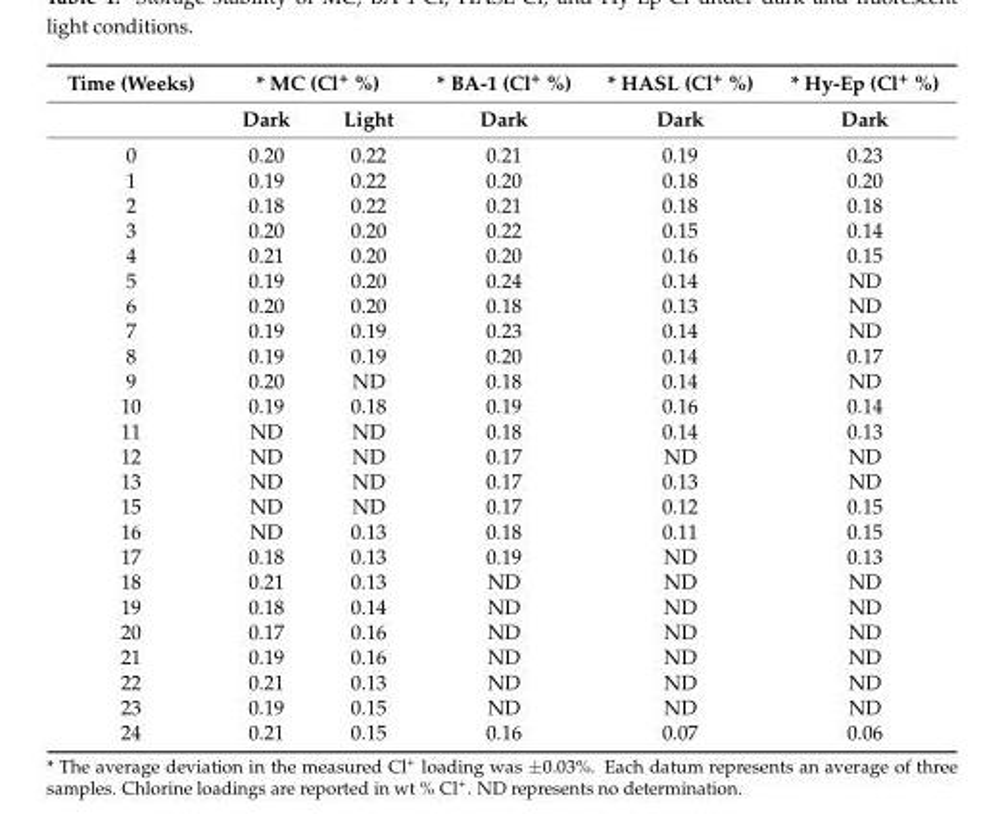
<table><thead><tr><td rowspan="2">Time (Weeks)</td><td colspan="2">* MC (Cl+ %)</td><td rowspan="2">* BA-1 (Cl+ %) Dark</td><td rowspan="2">* HASL (Cl+ %) Dark</td><td rowspan="2">* Hy-Ep (Cl+ %) Dark</td></tr><tr><td>Dark</td><td>Light</td></tr></thead><tbody><tr><td>0</td><td>0.20</td><td>0.22</td><td>0.21</td><td>0.19</td><td>0.23</td></tr><tr><td>1</td><td>0.19</td><td>0.22</td><td>0.20</td><td>0.18</td><td>0.20</td></tr><tr><td>2</td><td>0.18</td><td>0.22</td><td>0.21</td><td>0.18</td><td>0.18</td></tr><tr><td>3</td><td>0.20</td><td>0.20</td><td>0.22</td><td>0.15</td><td>0.14</td></tr><tr><td>4</td><td>0.21</td><td>0.20</td><td>0.20</td><td>0.16</td><td>0.15</td></tr><tr><td>5</td><td>0.19</td><td>0.20</td><td>0.24</td><td>0.14</td><td>ND</td></tr><tr><td>6</td><td>0.20</td><td>0.20</td><td>0.18</td><td>0.13</td><td>ND</td></tr><tr><td>7</td><td>0.19</td><td>0.19</td><td>0.23</td><td>0.14</td><td>ND</td></tr><tr><td>8</td><td>0.19</td><td>0.19</td><td>0.20</td><td>0.14</td><td>0.17</td></tr><tr><td>9</td><td>0.20</td><td>ND</td><td>0.18</td><td>0.14</td><td>ND</td></tr><tr><td>10</td><td>0.19</td><td>0.18</td><td>0.19</td><td>0.16</td><td>0.14</td></tr><tr><td>11</td><td>ND</td><td>ND</td><td>0.18</td><td>0.14</td><td>0.13</td></tr><tr><td>12</td><td>ND</td><td>ND</td><td>0.17</td><td>ND</td><td>ND</td></tr><tr><td>13</td><td>ND</td><td>ND</td><td>0.17</td><td>0.13</td><td>ND</td></tr><tr><td>15</td><td>ND</td><td>ND</td><td>0.17</td><td>0.12</td><td>0.15</td></tr><tr><td>16</td><td>ND</td><td>0.13</td><td>0.18</td><td>0.11</td><td>0.15</td></tr><tr><td>17</td><td>0.18</td><td>0.13</td><td>0.19</td><td>ND</td><td>0.13</td></tr><tr><td>18</td><td>0.21</td><td>0.13</td><td>ND</td><td>ND</td><td>ND</td></tr><tr><td>19</td><td>0.18</td><td>0.14</td><td>ND</td><td>ND</td><td>ND</td></tr><tr><td>20</td><td>0.17</td><td>0.16</td><td>ND</td><td>ND</td><td>ND</td></tr><tr><td>21</td><td>0.19</td><td>0.16</td><td>ND</td><td>ND</td><td>ND</td></tr><tr><td>22</td><td>0.21</td><td>0.13</td><td>ND</td><td>ND</td><td>ND</td></tr><tr><td>23</td><td>0.19</td><td>0.15</td><td>ND</td><td>ND</td><td>ND</td></tr><tr><td>24</td><td>0.21</td><td>0.15</td><td>0.16</td><td>0.07</td><td>0.06</td></tr></tbody></table>